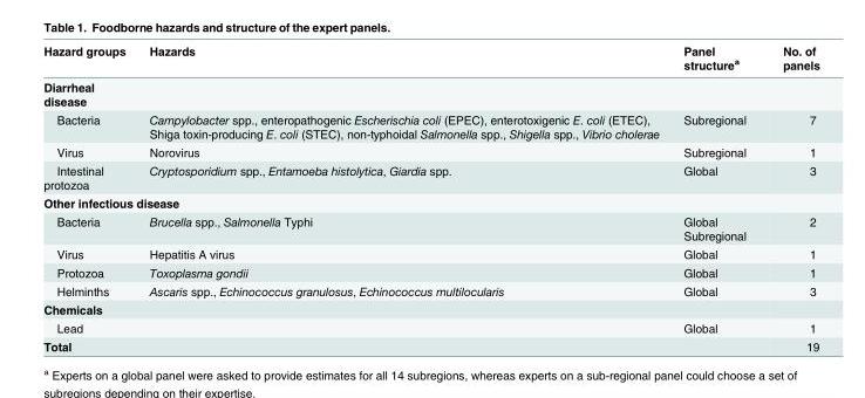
<table><thead><tr><td>Hazard groups</td><td>Hazards</td><td>Panel structure<sup>a</sup></td><td>No. of panels</td></tr></thead><tbody><tr><td colspan="4">Diarrheal disease</td></tr><tr><td>Bacteria</td><td>Campylobacter spp., enteropathogenic Escherischia coli (EPEC), enterotoxigenic E. coli (ETEC), Shiga toxin-producing E. coli (STEC), non-typhoidal Salmonella spp., Shigella spp., Vibrio cholerae</td><td>Subregional</td><td>7</td></tr><tr><td>Virus</td><td>Norovirus</td><td>Subregional</td><td>1</td></tr><tr><td>Intestinal protozoa</td><td>Cryptosporidium spp., Entamoeba histolytica, Giardia spp.</td><td>Global</td><td>3</td></tr><tr><td colspan="4">Other infectious disease</td></tr><tr><td>Bacteria</td><td>Brucella spp., Salmonella Typhi</td><td>Global Subregional</td><td>2</td></tr><tr><td>Virus</td><td>Hepatitis A virus</td><td>Global</td><td>1</td></tr><tr><td>Protozoa</td><td>Toxoplasma gondii</td><td>Global</td><td>1</td></tr><tr><td>Helminths</td><td>Ascaris spp., Echinococcus granulosus, Echinococcus multilocularis</td><td>Global</td><td>3</td></tr><tr><td colspan="4">Chemicals</td></tr><tr><td>Lead</td><td></td><td>Global</td><td>1</td></tr><tr><td>Total</td><td></td><td></td><td>19</td></tr></tbody></table>